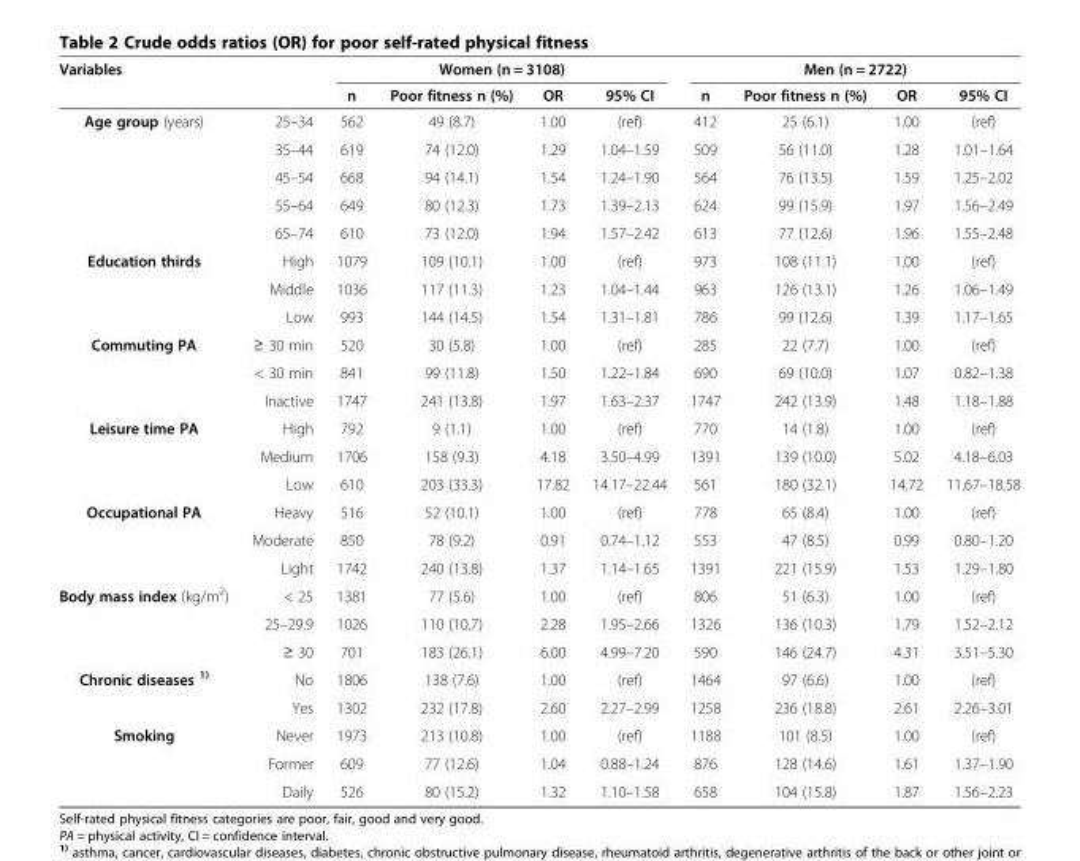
<table><thead><tr><td colspan="2">Variables</td><td colspan="4">Women (n = 3108)</td><td colspan="4">Men (n = 2722)</td></tr><tr><td></td><td></td><td>n</td><td>Poor fitness n (%)</td><td>OR</td><td>95% CI</td><td>n</td><td>Poor fitness n (%)</td><td>OR</td><td>95% CI</td></tr></thead><tbody><tr><td rowspan="5">Age group (years)</td><td>25–34</td><td>562</td><td>49 (8.7)</td><td>1.00</td><td>(ref)</td><td>412</td><td>25 (6.1)</td><td>1.00</td><td>(ref)</td></tr><tr><td>35–44</td><td>619</td><td>74 (12.0)</td><td>1.29</td><td>1.04–1.59</td><td>509</td><td>56 (11.0)</td><td>1.28</td><td>1.01–1.64</td></tr><tr><td>45–54</td><td>668</td><td>94 (14.1)</td><td>1.54</td><td>1.24–1.90</td><td>564</td><td>76 (13.5)</td><td>1.59</td><td>1.25–2.02</td></tr><tr><td>55–64</td><td>649</td><td>80 (12.3)</td><td>1.73</td><td>1.39–2.13</td><td>624</td><td>99 (15.9)</td><td>1.97</td><td>1.56–2.49</td></tr><tr><td>65–74</td><td>610</td><td>73 (12.0)</td><td>1.94</td><td>1.57–2.42</td><td>613</td><td>77 (12.6)</td><td>1.96</td><td>1.55–2.48</td></tr><tr><td rowspan="3">Education thirds</td><td>High</td><td>1079</td><td>109 (10.1)</td><td>1.00</td><td>(ref)</td><td>973</td><td>108 (11.1)</td><td>1.00</td><td>(ref)</td></tr><tr><td>Middle</td><td>1036</td><td>117 (11.3)</td><td>1.23</td><td>1.04–1.44</td><td>963</td><td>126 (13.1)</td><td>1.26</td><td>1.06–1.49</td></tr><tr><td>Low</td><td>993</td><td>144 (14.5)</td><td>1.54</td><td>1.31–1.81</td><td>786</td><td>99 (12.6)</td><td>1.39</td><td>1.17–1.65</td></tr><tr><td rowspan="3">Commuting PA</td><td>≥ 30 min</td><td>520</td><td>30 (5.8)</td><td>1.00</td><td>(ref)</td><td>285</td><td>22 (7.7)</td><td>1.00</td><td>(ref)</td></tr><tr><td>&lt; 30 min</td><td>841</td><td>99 (11.8)</td><td>1.50</td><td>1.22–1.84</td><td>690</td><td>69 (10.0)</td><td>1.07</td><td>0.82–1.38</td></tr><tr><td>Inactive</td><td>1747</td><td>241 (13.8)</td><td>1.97</td><td>1.63–2.37</td><td>1747</td><td>242 (13.9)</td><td>1.48</td><td>1.18–1.88</td></tr><tr><td rowspan="3">Leisure time PA</td><td>High</td><td>792</td><td>9 (1.1)</td><td>1.00</td><td>(ref)</td><td>770</td><td>14 (1.8)</td><td>1.00</td><td>(ref)</td></tr><tr><td>Medium</td><td>1706</td><td>158 (9.3)</td><td>4.18</td><td>3.50–4.99</td><td>1391</td><td>139 (10.0)</td><td>5.02</td><td>4.18–6.03</td></tr><tr><td>Low</td><td>610</td><td>203 (33.3)</td><td>17.82</td><td>14.17–22.44</td><td>561</td><td>180 (32.1)</td><td>14.72</td><td>11.67–18.58</td></tr><tr><td rowspan="3">Occupational PA</td><td>Heavy</td><td>516</td><td>52 (10.1)</td><td>1.00</td><td>(ref)</td><td>778</td><td>65 (8.4)</td><td>1.00</td><td>(ref)</td></tr><tr><td>Moderate</td><td>850</td><td>78 (9.2)</td><td>0.91</td><td>0.74–1.12</td><td>553</td><td>47 (8.5)</td><td>0.99</td><td>0.80–1.20</td></tr><tr><td>Light</td><td>1742</td><td>240 (13.8)</td><td>1.37</td><td>1.14–1.65</td><td>1391</td><td>221 (15.9)</td><td>1.53</td><td>1.29–1.80</td></tr><tr><td rowspan="3">Body mass index (kg/m<sup>2</sup>)</td><td>&lt; 25</td><td>1381</td><td>77 (5.6)</td><td>1.00</td><td>(ref)</td><td>806</td><td>51 (6.3)</td><td>1.00</td><td>(ref)</td></tr><tr><td>25–29.9</td><td>1026</td><td>110 (10.7)</td><td>2.28</td><td>1.95–2.66</td><td>1326</td><td>136 (10.3)</td><td>1.79</td><td>1.52–2.12</td></tr><tr><td>≥ 30</td><td>701</td><td>183 (26.1)</td><td>6.00</td><td>4.99–7.20</td><td>590</td><td>146 (24.7)</td><td>4.31</td><td>3.51–5.30</td></tr><tr><td rowspan="2">Chronic diseases <sup>1)</sup></td><td>No</td><td>1806</td><td>138 (7.6)</td><td>1.00</td><td>(ref)</td><td>1464</td><td>97 (6.6)</td><td>1.00</td><td>(ref)</td></tr><tr><td>Yes</td><td>1302</td><td>232 (17.8)</td><td>2.60</td><td>2.27–2.99</td><td>1258</td><td>236 (18.8)</td><td>2.61</td><td>2.26–3.01</td></tr><tr><td rowspan="3">Smoking</td><td>Never</td><td>1973</td><td>213 (10.8)</td><td>1.00</td><td>(ref)</td><td>1188</td><td>101 (8.5)</td><td>1.00</td><td>(ref)</td></tr><tr><td>Former</td><td>609</td><td>77 (12.6)</td><td>1.04</td><td>0.88–1.24</td><td>876</td><td>128 (14.6)</td><td>1.61</td><td>1.37–1.90</td></tr><tr><td>Daily</td><td>526</td><td>80 (15.2)</td><td>1.32</td><td>1.10–1.58</td><td>658</td><td>104 (15.8)</td><td>1.87</td><td>1.56–2.23</td></tr></tbody></table>